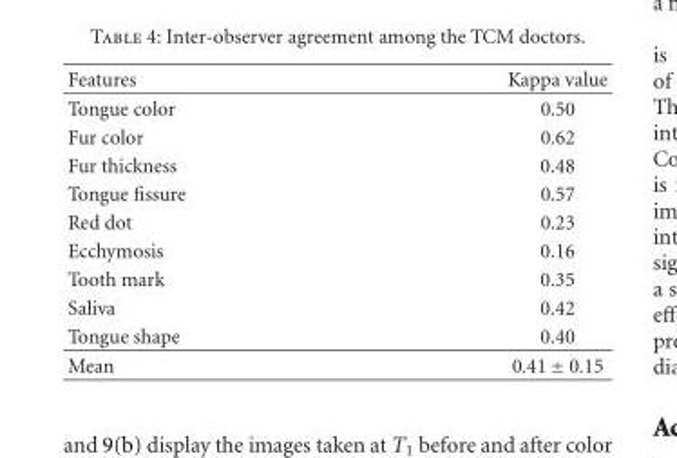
<table><thead><tr><td>Features</td><td>Kappa value</td></tr></thead><tbody><tr><td>Tongue color</td><td>0.50</td></tr><tr><td>Fur color</td><td>0.62</td></tr><tr><td>Fur thickness</td><td>0.48</td></tr><tr><td>Tongue fissure</td><td>0.57</td></tr><tr><td>Red dot</td><td>0.23</td></tr><tr><td>Ecchymosis</td><td>0.16</td></tr><tr><td>Tooth mark</td><td>0.35</td></tr><tr><td>Saliva</td><td>0.42</td></tr><tr><td>Tongue shape</td><td>0.40</td></tr><tr><td>Mean</td><td>0.41 ± 0.15</td></tr></tbody></table>